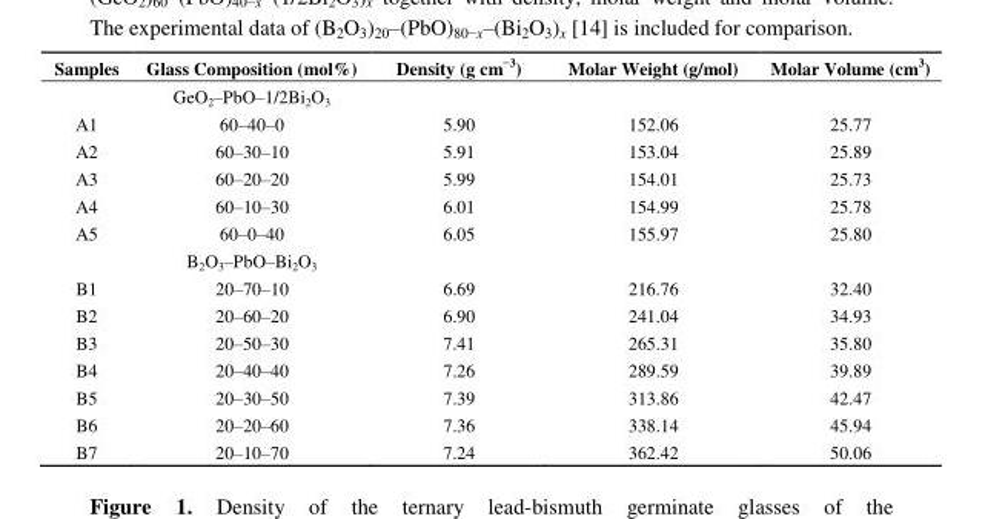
<table><thead><tr><td>Samples</td><td>Glass Composition (mol%)</td><td>Density (g cm<sup>−3</sup>)</td><td>Molar Weight (g/mol)</td><td>Molar Volume (cm<sup>3</sup>)</td></tr></thead><tbody><tr><td></td><td>GeO<sub>2</sub>–PbO–1/2Bi<sub>2</sub>O<sub>3</sub></td><td></td><td></td><td></td></tr><tr><td>A1</td><td>60–40–0</td><td>5.90</td><td>152.06</td><td>25.77</td></tr><tr><td>A2</td><td>60–30–10</td><td>5.91</td><td>153.04</td><td>25.89</td></tr><tr><td>A3</td><td>60–20–20</td><td>5.99</td><td>154.01</td><td>25.73</td></tr><tr><td>A4</td><td>60–10–30</td><td>6.01</td><td>154.99</td><td>25.78</td></tr><tr><td rowspan="2">A5</td><td>60–0–40</td><td>6.05</td><td>155.97</td><td>25.80</td></tr><tr><td>B<sub>2</sub>O<sub>3</sub>–PbO–Bi<sub>2</sub>O<sub>3</sub></td><td></td><td></td><td></td></tr><tr><td>B1</td><td>20–70–10</td><td>6.69</td><td>216.76</td><td>32.40</td></tr><tr><td>B2</td><td>20–60–20</td><td>6.90</td><td>241.04</td><td>34.93</td></tr><tr><td>B3</td><td>20–50–30</td><td>7.41</td><td>265.31</td><td>35.80</td></tr><tr><td>B4</td><td>20–40–40</td><td>7.26</td><td>289.59</td><td>39.89</td></tr><tr><td>B5</td><td>20–30–50</td><td>7.39</td><td>313.86</td><td>42.47</td></tr><tr><td>B6</td><td>20–20–60</td><td>7.36</td><td>338.14</td><td>45.94</td></tr><tr><td>B7</td><td>20–10–70</td><td>7.24</td><td>362.42</td><td>50.06</td></tr></tbody></table>